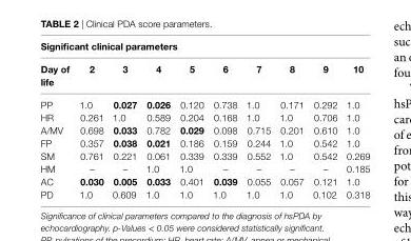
<table><thead><tr><td colspan="10">significant clinical parameters</td></tr><tr><td>Day of life</td><td>2</td><td>3</td><td>4</td><td>5</td><td>6</td><td>7</td><td>8</td><td>9</td><td>10</td></tr></thead><tbody><tr><td>PP</td><td>1.0</td><td>0.027</td><td>0.026</td><td>0.120</td><td>0.738</td><td>1.0</td><td>0.171</td><td>0.292</td><td>1.0</td></tr><tr><td>HR</td><td>0.261</td><td>1.0</td><td>0.589</td><td>0.204</td><td>0.168</td><td>1.0</td><td>1.0</td><td>0.706</td><td>1.0</td></tr><tr><td>A/MV</td><td>0.698</td><td>0.033</td><td>0.782</td><td>0.029</td><td>0.098</td><td>0.715</td><td>0.201</td><td>0.610</td><td>1.0</td></tr><tr><td>FP</td><td>0.357</td><td>0.038</td><td>0.021</td><td>0.186</td><td>0.159</td><td>0.244</td><td>1.0</td><td>0.542</td><td>1.0</td></tr><tr><td>SM</td><td>0.761</td><td>0.221</td><td>0.061</td><td>0.339</td><td>0.339</td><td>0.552</td><td>1.0</td><td>0.542</td><td>0.269</td></tr><tr><td>HM</td><td>–</td><td>–</td><td>1.0</td><td>1.0</td><td>–</td><td>–</td><td>–</td><td>–</td><td>0.185</td></tr><tr><td>AC</td><td>0.030</td><td>0.005</td><td>0.033</td><td>0.401</td><td>0.039</td><td>0.055</td><td>0.057</td><td>0.121</td><td>1.0</td></tr><tr><td>PD</td><td>1.0</td><td>0.609</td><td>1.0</td><td>1.0</td><td>1.0</td><td>1.0</td><td>1.0</td><td>0.102</td><td>0.318</td></tr></tbody></table>